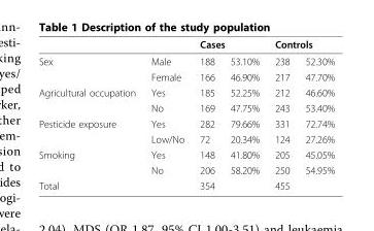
<table><thead><tr><td rowspan="2">Sex</td><td rowspan="2">Male</td><td colspan="2">Cases</td><td colspan="2">Controls</td></tr><tr><td>188</td><td>53.10%</td><td>238</td><td>52.30%</td></tr></thead><tbody><tr><td></td><td>Female</td><td>166</td><td>46.90%</td><td>217</td><td>47.70%</td></tr><tr><td rowspan="2">Agricultural occupation</td><td>Yes</td><td>185</td><td>52.25%</td><td>212</td><td>46.60%</td></tr><tr><td>No</td><td>169</td><td>47.75%</td><td>243</td><td>53.40%</td></tr><tr><td rowspan="2">Pesticide exposure</td><td>Yes</td><td>282</td><td>79.66%</td><td>331</td><td>72.74%</td></tr><tr><td>Low/No</td><td>72</td><td>20.34%</td><td>124</td><td>27.26%</td></tr><tr><td rowspan="2">Smoking</td><td>Yes</td><td>148</td><td>41.80%</td><td>205</td><td>45.05%</td></tr><tr><td>No</td><td>206</td><td>58.20%</td><td>250</td><td>54.95%</td></tr><tr><td>Total</td><td></td><td>354</td><td></td><td>455</td><td></td></tr></tbody></table>